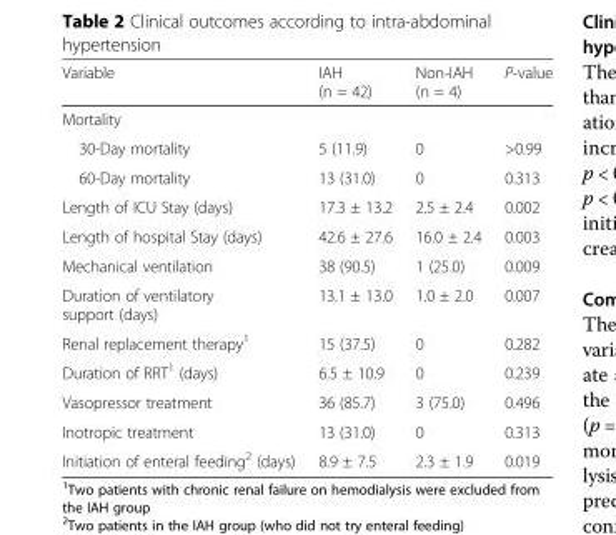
<table><thead><tr><td>Variable</td><td>IAH (n = 42)</td><td>Non-IAH (n = 4)</td><td>P-value</td></tr></thead><tbody><tr><td colspan="4">Mortality</td></tr><tr><td>30-Day mortality</td><td>5 (11.9)</td><td>0</td><td>&gt;0.99</td></tr><tr><td>60-Day mortality</td><td>13 (31.0)</td><td>0</td><td>0.313</td></tr><tr><td>Length of ICU Stay (days)</td><td>17.3 ± 13.2</td><td>2.5 ± 2.4</td><td>0.002</td></tr><tr><td>Length of hospital Stay (days)</td><td>42.6 ± 27.6</td><td>16.0 ± 2.4</td><td>0.003</td></tr><tr><td>Mechanical ventilation</td><td>38 (90.5)</td><td>1 (25.0)</td><td>0.009</td></tr><tr><td>Duration of ventilatory support (days)</td><td>13.1 ± 13.0</td><td>1.0 ± 2.0</td><td>0.007</td></tr><tr><td>Renal replacement therapy<sup>1</sup></td><td>15 (37.5)</td><td>0</td><td>0.282</td></tr><tr><td>Duration of RRT<sup>1</sup> (days)</td><td>6.5 ± 10.9</td><td>0</td><td>0.239</td></tr><tr><td>Vasopressor treatment</td><td>36 (85.7)</td><td>3 (75.0)</td><td>0.496</td></tr><tr><td>Inotropic treatment</td><td>13 (31.0)</td><td>0</td><td>0.313</td></tr><tr><td>Initiation of enteral feeding<sup>2</sup> (days)</td><td>8.9 ± 7.5</td><td>2.3 ± 1.9</td><td>0.019</td></tr></tbody></table>